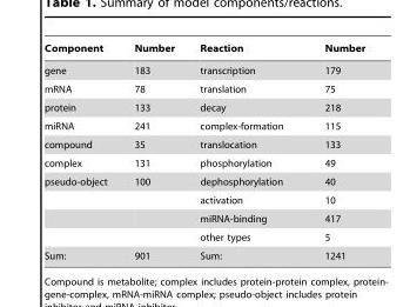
<table><thead><tr><td>Component</td><td>Number</td><td>Reaction</td><td>Number</td></tr></thead><tbody><tr><td>gene</td><td>183</td><td>transcription</td><td>179</td></tr><tr><td>mRNA</td><td>78</td><td>translation</td><td>75</td></tr><tr><td>protein</td><td>133</td><td>decay</td><td>218</td></tr><tr><td>miRNA</td><td>241</td><td>complex-formation</td><td>115</td></tr><tr><td>compound</td><td>35</td><td>translocation</td><td>133</td></tr><tr><td>complex</td><td>131</td><td>phosphorylation</td><td>49</td></tr><tr><td rowspan="4">pseudo-object</td><td>100</td><td>dephosphorylation</td><td>40</td></tr><tr><td></td><td>activation</td><td>10</td></tr><tr><td></td><td>miRNA-binding</td><td>417</td></tr><tr><td></td><td>other types</td><td>5</td></tr><tr><td>Sum:</td><td>901</td><td>Sum:</td><td>1241</td></tr></tbody></table>